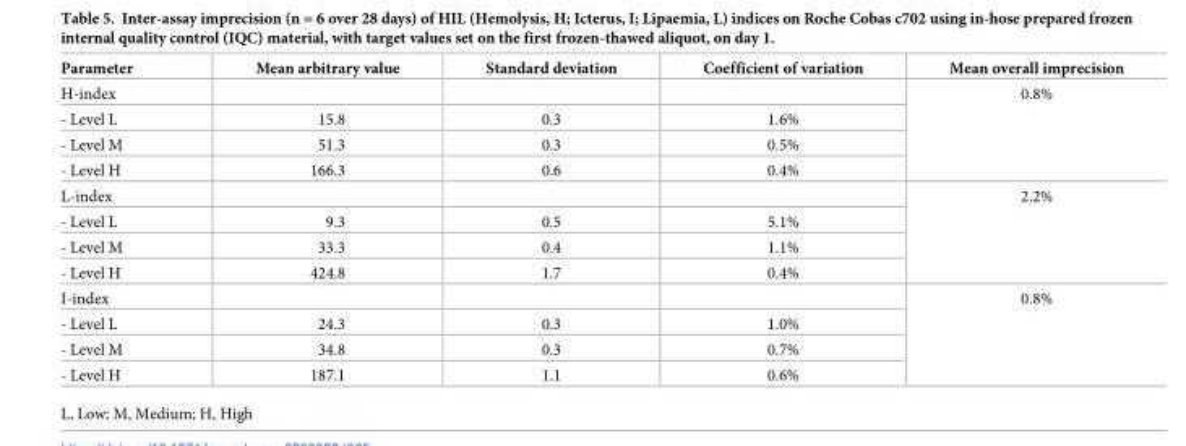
<table><thead><tr><td>Parameter</td><td>Mean arbitrary value</td><td>Standard deviation</td><td>Coefficient of variation</td><td>Mean overall imprecision</td></tr></thead><tbody><tr><td colspan="4">H-index</td><td rowspan="4">0.8%</td></tr><tr><td>- Level L</td><td>15.8</td><td>0.3</td><td>1.6%</td></tr><tr><td>- Level M</td><td>51.3</td><td>0.3</td><td>0.5%</td></tr><tr><td>- Level H</td><td>166.3</td><td>0.6</td><td>0.4%</td></tr><tr><td colspan="4">L-index</td><td rowspan="4">2.2%</td></tr><tr><td>- Level L</td><td>9.3</td><td>0.5</td><td>5.1%</td></tr><tr><td>- Level M</td><td>33.3</td><td>0.4</td><td>1.1%</td></tr><tr><td>- Level H</td><td>424.8</td><td>1.7</td><td>0.4%</td></tr><tr><td colspan="4">I-index</td><td rowspan="4">0.8%</td></tr><tr><td>- Level L</td><td>24.3</td><td>0.3</td><td>1.0%</td></tr><tr><td>- Level M</td><td>34.8</td><td>0.3</td><td>0.7%</td></tr><tr><td>- Level H</td><td>187.1</td><td>1.1</td><td>0.6%</td></tr></tbody></table>